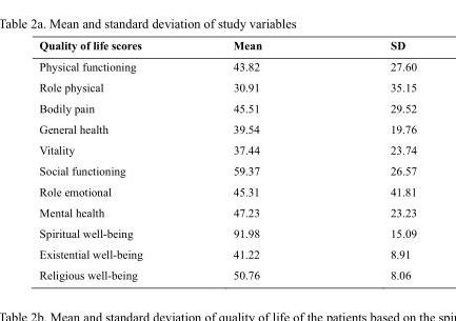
<table><thead><tr><td>Quality of life scores</td><td>Mean</td><td>SD</td></tr></thead><tbody><tr><td>Physical functioning</td><td>43.82</td><td>27.60</td></tr><tr><td>Role physical</td><td>30.91</td><td>35.15</td></tr><tr><td>Bodily pain</td><td>45.51</td><td>29.52</td></tr><tr><td>General health</td><td>39.54</td><td>19.76</td></tr><tr><td>Vitality</td><td>37.44</td><td>23.74</td></tr><tr><td>Social functioning</td><td>59.37</td><td>26.57</td></tr><tr><td>Role emotional</td><td>45.31</td><td>41.81</td></tr><tr><td>Mental health</td><td>47.23</td><td>23.23</td></tr><tr><td>Spiritual well-being</td><td>91.98</td><td>15.09</td></tr><tr><td>Existential well-being</td><td>41.22</td><td>8.91</td></tr><tr><td>Religious well-being</td><td>50.76</td><td>8.06</td></tr></tbody></table>